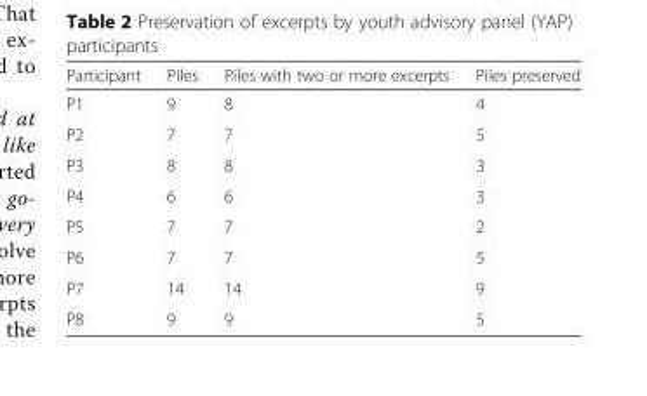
<table><thead><tr><td>Participant</td><td>Piles</td><td>Piles with two or more excerpts</td><td>Piles preserved</td></tr></thead><tbody><tr><td>P1</td><td>9</td><td>8</td><td>4</td></tr><tr><td>P2</td><td>7</td><td>7</td><td>5</td></tr><tr><td>P3</td><td>8</td><td>8</td><td>3</td></tr><tr><td>P4</td><td>6</td><td>6</td><td>3</td></tr><tr><td>P5</td><td>7</td><td>7</td><td>2</td></tr><tr><td>P6</td><td>7</td><td>7</td><td>5</td></tr><tr><td>P7</td><td>14</td><td>14</td><td>9</td></tr><tr><td>P8</td><td>9</td><td>9</td><td>5</td></tr></tbody></table>